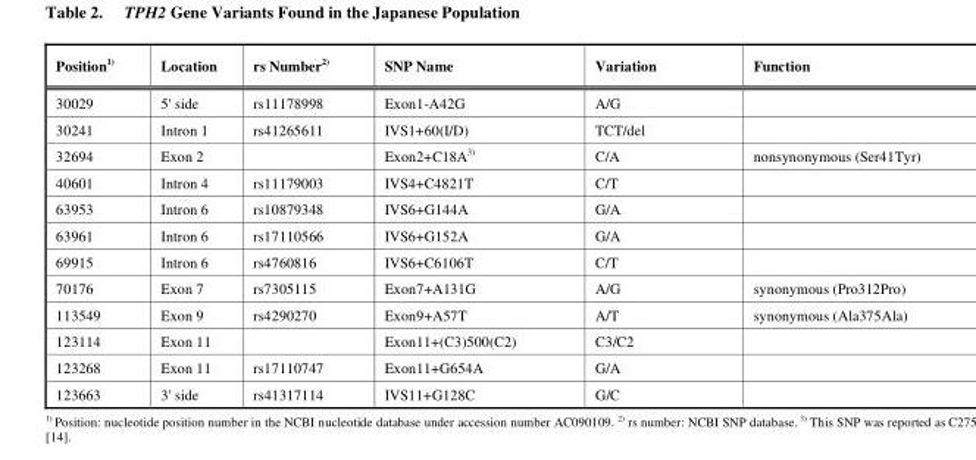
<table><thead><tr><td>Position1)</td><td>Location</td><td>rs Number2)</td><td>SNP Name</td><td>Variation</td><td>Function</td></tr></thead><tbody><tr><td>30029</td><td>5&#x27; side</td><td>rs11178998</td><td>Exon1-A42G</td><td>A/G</td><td></td></tr><tr><td>30241</td><td>Intron 1</td><td>rs41265611</td><td>IVS1+60(I/D)</td><td>TCT/del</td><td></td></tr><tr><td>32694</td><td>Exon 2</td><td></td><td>Exon2+C18A3)</td><td>C/A</td><td>nonsynonymous (Ser41Tyr)</td></tr><tr><td>40601</td><td>Intron 4</td><td>rs11179003</td><td>IVS4+C4821T</td><td>C/T</td><td></td></tr><tr><td>63953</td><td>Intron 6</td><td>rs10879348</td><td>IVS6+G144A</td><td>G/A</td><td></td></tr><tr><td>63961</td><td>Intron 6</td><td>rs17110566</td><td>IVS6+G152A</td><td>G/A</td><td></td></tr><tr><td>69915</td><td>Intron 6</td><td>rs4760816</td><td>IVS6+C6106T</td><td>C/T</td><td></td></tr><tr><td>70176</td><td>Exon 7</td><td>rs7305115</td><td>Exon7+A131G</td><td>A/G</td><td>synonymous (Pro312Pro)</td></tr><tr><td>113549</td><td>Exon 9</td><td>rs4290270</td><td>Exon9+A57T</td><td>A/T</td><td>synonymous (Ala375Ala)</td></tr><tr><td>123114</td><td>Exon 11</td><td></td><td>Exon11+(C3)500(C2)</td><td>C3/C2</td><td></td></tr><tr><td>123268</td><td>Exon 11</td><td>rs17110747</td><td>Exon11+G654A</td><td>G/A</td><td></td></tr><tr><td>123663</td><td>3&#x27; side</td><td>rs41317114</td><td>IVS11+G128C</td><td>G/C</td><td></td></tr></tbody></table>